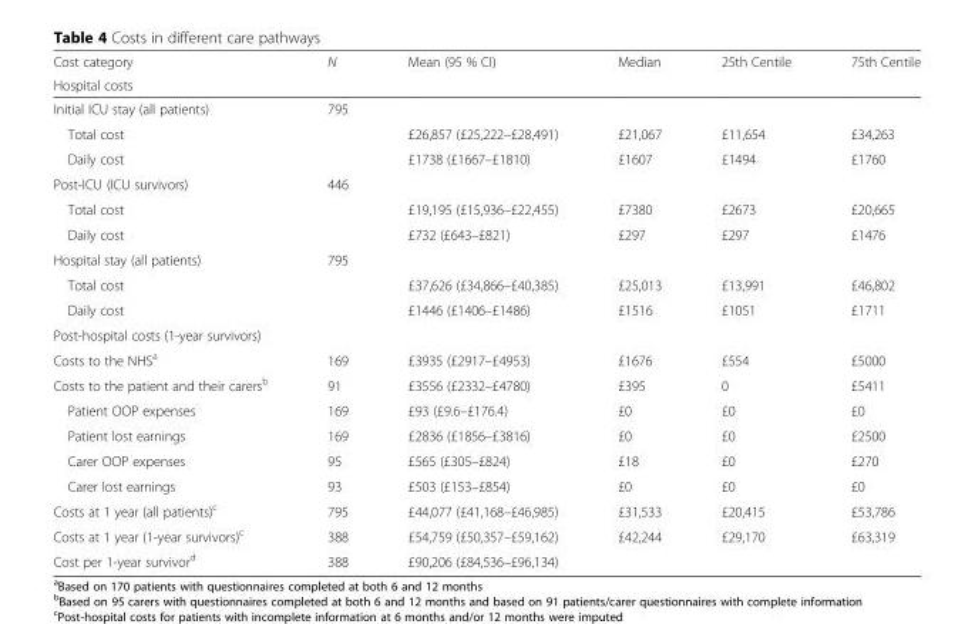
<table><thead><tr><td rowspan="2">Cost category Hospital costs</td><td rowspan="2">N</td><td rowspan="2">Mean (95 % CI)</td><td rowspan="2">Median</td><td rowspan="2">25th Centile</td><td rowspan="2">75th Centile</td></tr><tr></tr></thead><tbody><tr><td>Initial ICU stay (all patients)</td><td>795</td><td></td><td></td><td></td><td></td></tr><tr><td>Total cost</td><td></td><td>£26,857 (£25,222–£28,491)</td><td>£21,067</td><td>£11,654</td><td>£34,263</td></tr><tr><td>Daily cost</td><td></td><td>£1738 (£1667–£1810)</td><td>£1607</td><td>£1494</td><td>£1760</td></tr><tr><td>Post-ICU (ICU survivors)</td><td>446</td><td></td><td></td><td></td><td></td></tr><tr><td>Total cost</td><td></td><td>£19,195 (£15,936–£22,455)</td><td>£7380</td><td>£2673</td><td>£20,665</td></tr><tr><td>Daily cost</td><td></td><td>£732 (£643–£821)</td><td>£297</td><td>£297</td><td>£1476</td></tr><tr><td>Hospital stay (all patients)</td><td>795</td><td></td><td></td><td></td><td></td></tr><tr><td>Total cost</td><td></td><td>£37,626 (£34,866–£40,385)</td><td>£25,013</td><td>£13,991</td><td>£46,802</td></tr><tr><td>Daily cost</td><td></td><td>£1446 (£1406–£1486)</td><td>£1516</td><td>£1051</td><td>£1711</td></tr><tr><td colspan="6">Post-hospital costs (1-year survivors)</td></tr><tr><td>Costs to the NHS<sup>a</sup></td><td>169</td><td>£3935 (£2917–£4953)</td><td>£1676</td><td>£554</td><td>£5000</td></tr><tr><td>Costs to the patient and their carers<sup>b</sup></td><td>91</td><td>£3556 (£2332–£4780)</td><td>£395</td><td>0</td><td>£5411</td></tr><tr><td>Patient OOP expenses</td><td>169</td><td>£93 (£9.6–£176.4)</td><td>£0</td><td>£0</td><td>£0</td></tr><tr><td>Patient lost earnings</td><td>169</td><td>£2836 (£1856–£3816)</td><td>£0</td><td>£0</td><td>£2500</td></tr><tr><td>Carer OOP expenses</td><td>95</td><td>£565 (£305–£824)</td><td>£18</td><td>£0</td><td>£270</td></tr><tr><td>Carer lost earnings</td><td>93</td><td>£503 (£153–£854)</td><td>£0</td><td>£0</td><td>£0</td></tr><tr><td>Costs at 1 year (all patients)<sup>c</sup></td><td>795</td><td>£44,077 (£41,168–£46,985)</td><td>£31,533</td><td>£20,415</td><td>£53,786</td></tr><tr><td>Costs at 1 year (1-year survivors)<sup>c</sup></td><td>388</td><td>£54,759 (£50,357–£59,162)</td><td>£42,244</td><td>£29,170</td><td>£63,319</td></tr><tr><td>Cost per 1-year survivor<sup>d</sup></td><td>388</td><td>£90,206 (£84,536–£96,134)</td><td></td><td></td><td></td></tr></tbody></table>